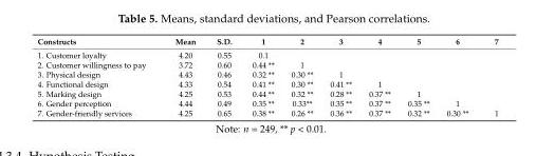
<table><thead><tr><td>Constructs</td><td>Mean</td><td>S.D.</td><td>1</td><td>2</td><td>3</td><td>4</td><td>5</td><td>6</td><td>7</td></tr></thead><tbody><tr><td>1. Customer loyalty</td><td>4.20</td><td>0.55</td><td>0.1</td><td></td><td></td><td></td><td></td><td></td><td></td></tr><tr><td>2. Customer willingness to pay</td><td>3.72</td><td>0.60</td><td>0.44 **</td><td>1</td><td></td><td></td><td></td><td></td><td></td></tr><tr><td>3. Physical design</td><td>4.43</td><td>0.46</td><td>0.32 **</td><td>0.30 **</td><td>1</td><td></td><td></td><td></td><td></td></tr><tr><td>4. Functional design</td><td>4.33</td><td>0.54</td><td>0.41 **</td><td>0.30 **</td><td>0.41 **</td><td>1</td><td></td><td></td><td></td></tr><tr><td>5. Marking design</td><td>4.25</td><td>0.53</td><td>0.44 **</td><td>0.32 **</td><td>0.28 **</td><td>0.37 **</td><td>1</td><td></td><td></td></tr><tr><td>6. Gender perception</td><td>4.44</td><td>0.49</td><td>0.35 **</td><td>0.33**</td><td>0.35 **</td><td>0.37 **</td><td>0.35 **</td><td>1</td><td></td></tr><tr><td>7. Gender-friendly services</td><td>4.25</td><td>0.65</td><td>0.38 **</td><td>0.26 **</td><td>0.36 **</td><td>0.37 **</td><td>0.32 **</td><td>0.30 **</td><td>1</td></tr></tbody></table>